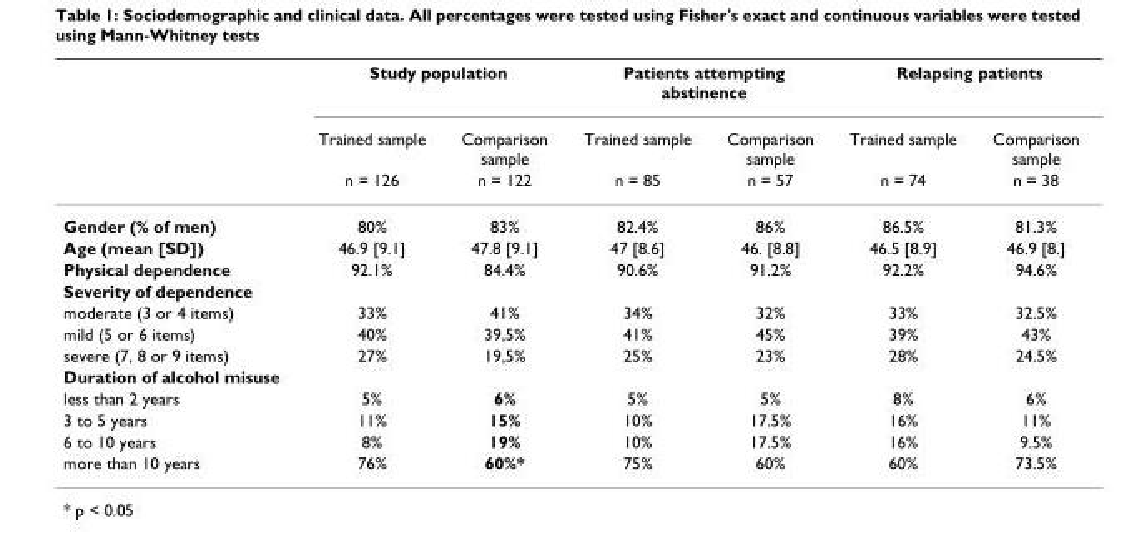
<table><thead><tr><td rowspan="3"></td><td colspan="2">Study population</td><td colspan="2">Patients attempting abstinence</td><td colspan="2">Relapsing patients</td></tr><tr><td rowspan="2">Trained sample n = 126</td><td rowspan="2">Comparison sample n = 122</td><td rowspan="2">Trained sample n = 85</td><td rowspan="2">Comparison sample n = 57</td><td rowspan="2">Trained sample n = 74</td><td rowspan="2">Comparison sample n = 38</td></tr><tr></tr></thead><tbody><tr><td>Gender (% of men)</td><td>80%</td><td>83%</td><td>82.4%</td><td>86%</td><td>86.5%</td><td>81.3%</td></tr><tr><td>Age (mean [SD])</td><td>46.9 [9.1]</td><td>47.8 [9.1]</td><td>47 [8.6]</td><td>46. [8.8]</td><td>46.5 [8.9]</td><td>46.9 [8.]</td></tr><tr><td>Physical dependence</td><td>92.1%</td><td>84.4%</td><td>90.6%</td><td>91.2%</td><td>92.2%</td><td>94.6%</td></tr><tr><td colspan="7">Severity of dependence</td></tr><tr><td>moderate (3 or 4 items)</td><td>33%</td><td>41%</td><td>34%</td><td>32%</td><td>33%</td><td>32.5%</td></tr><tr><td>mild (5 or 6 items)</td><td>40%</td><td>39,5%</td><td>41%</td><td>45%</td><td>39%</td><td>43%</td></tr><tr><td>severe (7, 8 or 9 items)</td><td>27%</td><td>19,5%</td><td>25%</td><td>23%</td><td>28%</td><td>24.5%</td></tr><tr><td colspan="7">Duration of alcohol misuse</td></tr><tr><td>less than 2 years</td><td>5%</td><td>6%</td><td>5%</td><td>5%</td><td>8%</td><td>6%</td></tr><tr><td>3 to 5 years</td><td>11%</td><td>15%</td><td>10%</td><td>17.5%</td><td>16%</td><td>11%</td></tr><tr><td>6 to 10 years</td><td>8%</td><td>19%</td><td>10%</td><td>17.5%</td><td>16%</td><td>9.5%</td></tr><tr><td>more than 10 years</td><td>76%</td><td>60%*</td><td>75%</td><td>60%</td><td>60%</td><td>73.5%</td></tr></tbody></table>